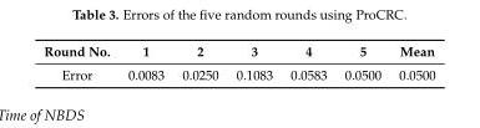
<table><thead><tr><td>Round No.</td><td>1</td><td>2</td><td>3</td><td>4</td><td>5</td><td>Mean</td></tr></thead><tbody><tr><td>Error</td><td>0.0083</td><td>0.0250</td><td>0.1083</td><td>0.0583</td><td>0.0500</td><td>0.0500</td></tr></tbody></table>